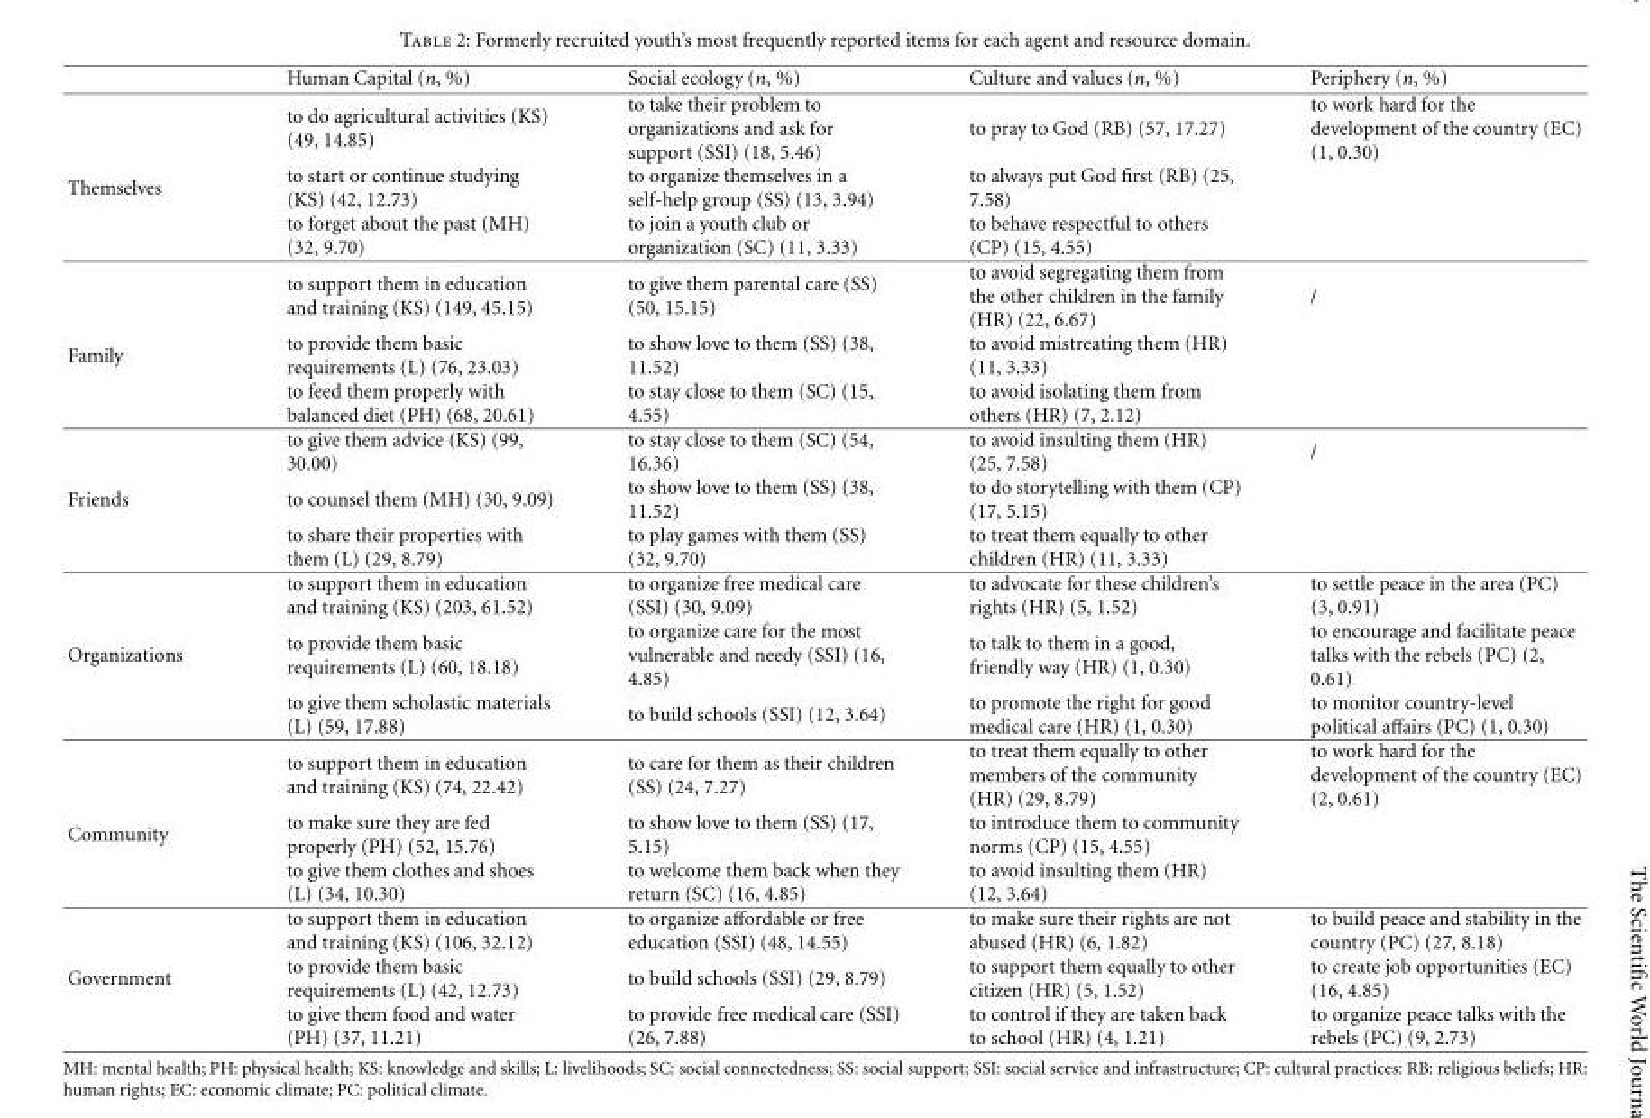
<table><thead><tr><td></td><td>Human Capital (n, %)</td><td>Social ecology (n, %)</td><td>Culture and values (n, %)</td><td>Periphery (n, %)</td></tr></thead><tbody><tr><td></td><td>to do agricultural activities (KS) (49, 14.85)</td><td>to take their problem to organizations and ask for support (SSI) (18, 5.46)</td><td>to pray to God (RB) (57, 17.27)</td><td>to work hard for the development of the country (EC) (1, 0.30)</td></tr><tr><td rowspan="3">Themselves</td><td>to start or continue studying (KS) (42, 12.73)</td><td>to organize themselves in a self-help group (SS) (13, 3.94)</td><td>to always put God first (RB) (25, 7.58)</td><td></td></tr><tr><td>to forget about the past (MH) (32, 9.70)</td><td>to join a youth club or organization (SC) (11, 3.33)</td><td>to behave respectful to others (CP) (15, 4.55)</td><td></td></tr><tr><td>to support them in education and training (KS) (149, 45.15)</td><td>to give them parental care (SS) (50, 15.15)</td><td>to avoid segregating them from the other children in the family (HR) (22, 6.67)</td><td>/</td></tr><tr><td rowspan="3">Family</td><td>to provide them basic requirements (L) (76, 23.03)</td><td>to show love to them (SS) (38, 11.52)</td><td>to avoid mistreating them (HR) (11, 3.33)</td><td></td></tr><tr><td>to feed them properly with balanced diet (PH) (68, 20.61)</td><td>to stay close to them (SC) (15, 4.55)</td><td>to avoid isolating them from others (HR) (7, 2.12)</td><td></td></tr><tr><td>to give them advice (KS) (99, 30.00)</td><td>to stay close to them (SC) (54, 16.36)</td><td>to avoid insulting them (HR) (25, 7.58)</td><td>/</td></tr><tr><td rowspan="3">Friends</td><td>to counsel them (MH) (30, 9.09)</td><td>to show love to them (SS) (38, 11.52)</td><td>to do storytelling with them (CP) (17, 5.15)</td><td></td></tr><tr><td>to share their properties with them (L) (29, 8.79)</td><td>to play games with them (SS) (32, 9.70)</td><td>to treat them equally to other children (HR) (11, 3.33)</td><td></td></tr><tr><td>to support them in education and training (KS) (203, 61.52)</td><td>to organize free medical care (SSI) (30, 9.09)</td><td>to advocate for these children’s rights (HR) (5, 1.52)</td><td>to settle peace in the area (PC) (3, 0.91)</td></tr><tr><td rowspan="3">Organizations</td><td>to provide them basic requirements (L) (60, 18.18)</td><td>to organize care for the most vulnerable and needy (SSI) (16, 4.85)</td><td>to talk to them in a good, friendly way (HR) (1, 0.30)</td><td>to encourage and facilitate peace talks with the rebels (PC) (2, 0.61)</td></tr><tr><td>to give them scholastic materials (L) (59, 17.88)</td><td>to build schools (SSI) (12, 3.64)</td><td>to promote the right for good medical care (HR) (1, 0.30)</td><td>to monitor country-level political affairs (PC) (1, 0.30)</td></tr><tr><td>to support them in education and training (KS) (74, 22.42)</td><td>to care for them as their children (SS) (24, 7.27)</td><td>to treat them equally to other members of the community (HR) (29, 8.79)</td><td>to work hard for the development of the country (EC) (2, 0.61)</td></tr><tr><td rowspan="3">Community</td><td>to make sure they are fed properly (PH) (52, 15.76)</td><td>to show love to them (SS) (17, 5.15)</td><td>to introduce them to community norms (CP) (15, 4.55)</td><td></td></tr><tr><td>to give them clothes and shoes (L) (34, 10.30)</td><td>to welcome them back when they return (SC) (16, 4.85)</td><td>to avoid insulting them (HR) (12, 3.64)</td><td></td></tr><tr><td>to support them in education and training (KS) (106, 32.12)</td><td>to organize affordable or free education (SSI) (48, 14.55)</td><td>to make sure their rights are not abused (HR) (6, 1.82)</td><td>to build peace and stability in the country (PC) (27, 8.18)</td></tr><tr><td rowspan="2">Government</td><td>to provide them basic requirements (L) (42, 12.73)</td><td>to build schools (SSI) (29, 8.79)</td><td>to support them equally to other citizen (HR) (5, 1.52)</td><td>to create job opportunities (EC) (16, 4.85)</td></tr><tr><td>to give them food and water (PH) (37, 11.21)</td><td>to provide free medical care (SSI) (26, 7.88)</td><td>to control if they are taken back to school (HR) (4, 1.21)</td><td>to organize peace talks with the rebels (PC) (9, 2.73)</td></tr></tbody></table>